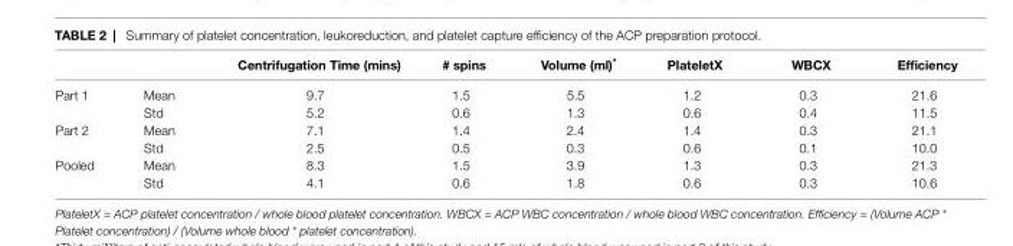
<table><thead><tr><td></td><td></td><td>centrifugation Time (mins)</td><td># spins</td><td>Volume (ml)*</td><td>PlateletX</td><td>WBcX</td><td>efficiency</td></tr></thead><tbody><tr><td rowspan="2">Part 1</td><td>Mean</td><td>9.7</td><td>1.5</td><td>5.5</td><td>1.2</td><td>0.3</td><td>21.6</td></tr><tr><td>Std</td><td>5.2</td><td>0.6</td><td>1.3</td><td>0.6</td><td>0.4</td><td>11.5</td></tr><tr><td rowspan="2">Part 2</td><td>Mean</td><td>7.1</td><td>1.4</td><td>2.4</td><td>1.4</td><td>0.3</td><td>21.1</td></tr><tr><td>Std</td><td>2.5</td><td>0.5</td><td>0.3</td><td>0.6</td><td>0.1</td><td>10.0</td></tr><tr><td rowspan="2">Pooled</td><td>Mean</td><td>8.3</td><td>1.5</td><td>3.9</td><td>1.3</td><td>0.3</td><td>21.3</td></tr><tr><td>Std</td><td>4.1</td><td>0.6</td><td>1.8</td><td>0.6</td><td>0.3</td><td>10.6</td></tr></tbody></table>